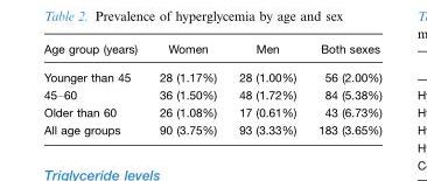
<table><thead><tr><td>Age group (years)</td><td>Women</td><td>Men</td><td>Both sexes</td></tr></thead><tbody><tr><td>Younger than 45</td><td>28 (1.17%)</td><td>28 (1.00%)</td><td>56 (2.00%)</td></tr><tr><td>45–60</td><td>36 (1.50%)</td><td>48 (1.72%)</td><td>84 (5.38%)</td></tr><tr><td>Older than 60</td><td>26 (1.08%)</td><td>17 (0.61%)</td><td>43 (6.73%)</td></tr><tr><td>All age groups</td><td>90 (3.75%)</td><td>93 (3.33%)</td><td>183 (3.65%)</td></tr></tbody></table>